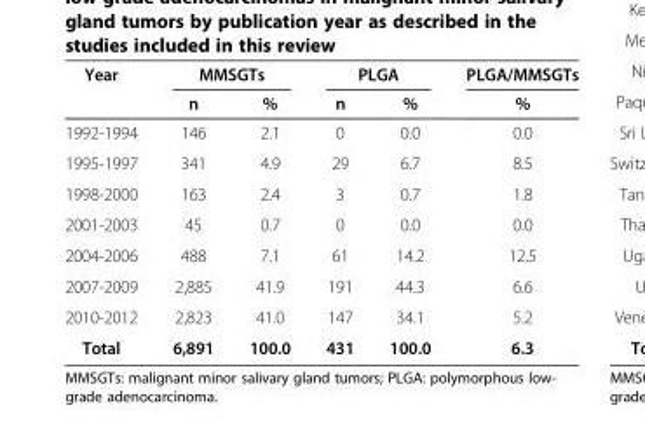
<table><thead><tr><td rowspan="2">Year</td><td colspan="2">MMSGTs</td><td colspan="2">PLGA</td><td rowspan="2">PLGA/MMSGTs %</td></tr><tr><td>n</td><td>%</td><td>n</td><td>%</td></tr></thead><tbody><tr><td>1992-1994</td><td>146</td><td>2.1</td><td>0</td><td>0.0</td><td>0.0</td></tr><tr><td>1995-1997</td><td>341</td><td>4.9</td><td>29</td><td>6.7</td><td>8.5</td></tr><tr><td>1998-2000</td><td>163</td><td>2.4</td><td>3</td><td>0.7</td><td>1.8</td></tr><tr><td>2001-2003</td><td>45</td><td>0.7</td><td>0</td><td>0.0</td><td>0.0</td></tr><tr><td>2004-2006</td><td>488</td><td>7.1</td><td>61</td><td>14.2</td><td>12.5</td></tr><tr><td>2007-2009</td><td>2,885</td><td>41.9</td><td>191</td><td>44.3</td><td>6.6</td></tr><tr><td>2010-2012</td><td>2,823</td><td>41.0</td><td>147</td><td>34.1</td><td>5.2</td></tr><tr><td>Total</td><td>6,891</td><td>100.0</td><td>431</td><td>100.0</td><td>6.3</td></tr></tbody></table>